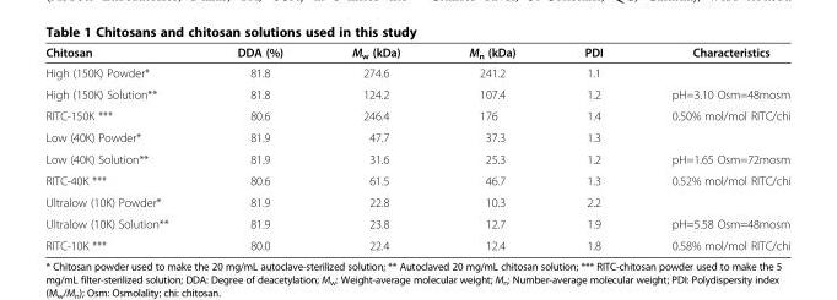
<table><thead><tr><td>Chitosan</td><td>DDA (%)</td><td>M<sub>w</sub> (kDa)</td><td>M<sub>n</sub> (kDa)</td><td>PDI</td><td>Characteristics</td></tr></thead><tbody><tr><td>High (150K) Powder*</td><td>81.8</td><td>274.6</td><td>241.2</td><td>1.1</td><td></td></tr><tr><td>High (150K) Solution**</td><td>81.8</td><td>124.2</td><td>107.4</td><td>1.2</td><td>pH=3.10 Osm=48mosm</td></tr><tr><td>RITC-150K ***</td><td>80.6</td><td>246.4</td><td>176</td><td>1.4</td><td>0.50% mol/mol RITC/chi</td></tr><tr><td>Low (40K) Powder*</td><td>81.9</td><td>47.7</td><td>37.3</td><td>1.3</td><td></td></tr><tr><td>Low (40K) Solution**</td><td>81.9</td><td>31.6</td><td>25.3</td><td>1.2</td><td>pH=1.65 Osm=72mosm</td></tr><tr><td>RITC-40K ***</td><td>80.6</td><td>61.5</td><td>46.7</td><td>1.3</td><td>0.52% mol/mol RITC/chi</td></tr><tr><td>Ultralow (10K) Powder*</td><td>81.9</td><td>22.8</td><td>10.3</td><td>2.2</td><td></td></tr><tr><td>Ultralow (10K) Solution**</td><td>81.9</td><td>23.8</td><td>12.7</td><td>1.9</td><td>pH=5.58 Osm=48mosm</td></tr><tr><td>RITC-10K ***</td><td>80.0</td><td>22.4</td><td>12.4</td><td>1.8</td><td>0.58% mol/mol RITC/chi</td></tr></tbody></table>